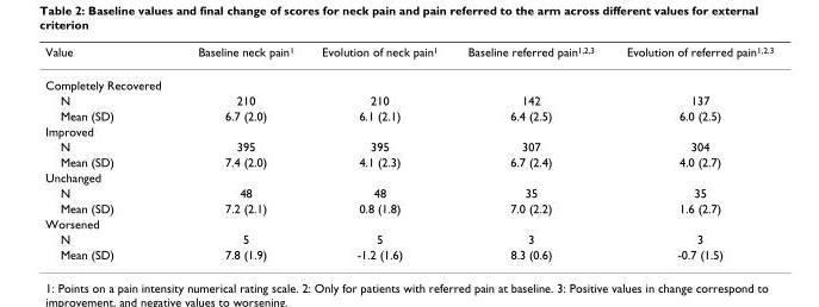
<table><thead><tr><td>Value</td><td>Baseline neck pain<sup>1</sup></td><td>Evolution of neck pain<sup>1</sup></td><td>Baseline referred pain<sup>1,2,3</sup></td><td>Evolution of referred pain<sup>1,2,3</sup></td></tr></thead><tbody><tr><td colspan="5">Completely Recovered</td></tr><tr><td>N</td><td>210</td><td>210</td><td>142</td><td>137</td></tr><tr><td>Mean (SD)</td><td>6.7 (2.0)</td><td>6.1 (2.1)</td><td>6.4 (2.5)</td><td>6.0 (2.5)</td></tr><tr><td colspan="5">Improved</td></tr><tr><td>N</td><td>395</td><td>395</td><td>307</td><td>304</td></tr><tr><td>Mean (SD)</td><td>7.4 (2.0)</td><td>4.1 (2.3)</td><td>6.7 (2.4)</td><td>4.0 (2.7)</td></tr><tr><td colspan="5">Unchanged</td></tr><tr><td>N</td><td>48</td><td>48</td><td>35</td><td>35</td></tr><tr><td>Mean (SD)</td><td>7.2 (2.1)</td><td>0.8 (1.8)</td><td>7.0 (2.2)</td><td>1.6 (2.7)</td></tr><tr><td colspan="5">Worsened</td></tr><tr><td>N</td><td>5</td><td>5</td><td>3</td><td>3</td></tr><tr><td>Mean (SD)</td><td>7.8 (1.9)</td><td>-1.2 (1.6)</td><td>8.3 (0.6)</td><td>-0.7 (1.5)</td></tr></tbody></table>